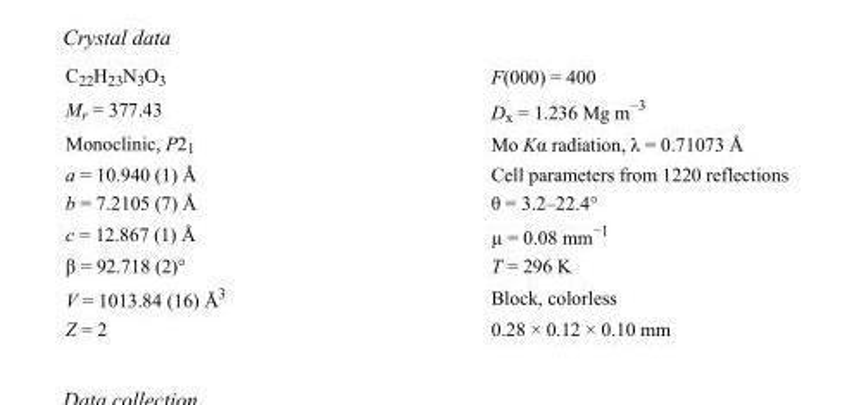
<table><tbody><tr><td>C<sub>22</sub>H<sub>23</sub>N<sub>3</sub>O<sub>3</sub></td><td>F(000) = 400</td></tr><tr><td>M<sub>r</sub> = 377.43</td><td>D<sub>x</sub> = 1.236 Mg m<sup>−3</sup></td></tr><tr><td>Monoclinic, P2<sub>1</sub></td><td>Mo Kα radiation, λ = 0.71073 Å</td></tr><tr><td>a = 10.940 (1) Å</td><td>Cell parameters from 1220 reflections</td></tr><tr><td>b = 7.2105 (7) Å</td><td>θ = 3.2–22.4°</td></tr><tr><td>c = 12.867 (1) Å</td><td>µ = 0.08 mm<sup>−1</sup></td></tr><tr><td>β = 92.718 (2)°</td><td>T = 296 K</td></tr><tr><td>V = 1013.84 (16) Å<sup>3</sup></td><td>Block, colorless</td></tr><tr><td>Z = 2</td><td>0.28 × 0.12 × 0.10 mm</td></tr></tbody></table>